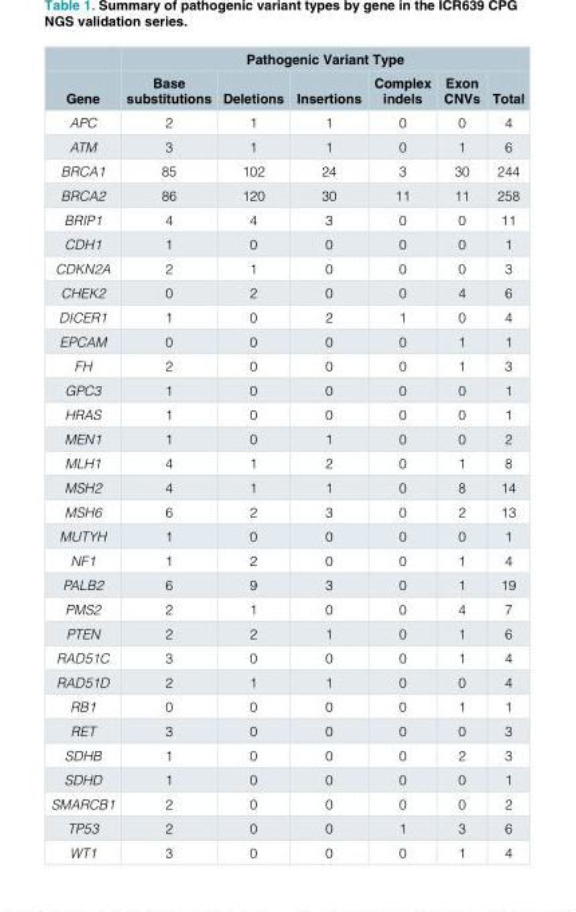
<table><thead><tr><td rowspan="2">Gene</td><td colspan="6">Pathogenic Variant Type</td></tr><tr><td>Base substitutions</td><td>Deletions</td><td>Insertions</td><td>Complex indels</td><td>Exon CNVs</td><td>Total</td></tr></thead><tbody><tr><td>APC</td><td>2</td><td>1</td><td>1</td><td>0</td><td>0</td><td>4</td></tr><tr><td>ATM</td><td>3</td><td>1</td><td>1</td><td>0</td><td>1</td><td>6</td></tr><tr><td>BRCA1</td><td>85</td><td>102</td><td>24</td><td>3</td><td>30</td><td>244</td></tr><tr><td>BRCA2</td><td>86</td><td>120</td><td>30</td><td>11</td><td>11</td><td>258</td></tr><tr><td>BRIP1</td><td>4</td><td>4</td><td>3</td><td>0</td><td>0</td><td>11</td></tr><tr><td>CDH1</td><td>1</td><td>0</td><td>0</td><td>0</td><td>0</td><td>1</td></tr><tr><td>CDKN2A</td><td>2</td><td>1</td><td>0</td><td>0</td><td>0</td><td>3</td></tr><tr><td>CHEK2</td><td>0</td><td>2</td><td>0</td><td>0</td><td>4</td><td>6</td></tr><tr><td>DICER1</td><td>1</td><td>0</td><td>2</td><td>1</td><td>0</td><td>4</td></tr><tr><td>EPCAM</td><td>0</td><td>0</td><td>0</td><td>0</td><td>1</td><td>1</td></tr><tr><td>FH</td><td>2</td><td>0</td><td>0</td><td>0</td><td>1</td><td>3</td></tr><tr><td>GPC3</td><td>1</td><td>0</td><td>0</td><td>0</td><td>0</td><td>1</td></tr><tr><td>HRAS</td><td>1</td><td>0</td><td>0</td><td>0</td><td>0</td><td>1</td></tr><tr><td>MEN1</td><td>1</td><td>0</td><td>1</td><td>0</td><td>0</td><td>2</td></tr><tr><td>MLH1</td><td>4</td><td>1</td><td>2</td><td>0</td><td>1</td><td>8</td></tr><tr><td>MSH2</td><td>4</td><td>1</td><td>1</td><td>0</td><td>8</td><td>14</td></tr><tr><td>MSH6</td><td>6</td><td>2</td><td>3</td><td>0</td><td>2</td><td>13</td></tr><tr><td>MUTYH</td><td>1</td><td>0</td><td>0</td><td>0</td><td>0</td><td>1</td></tr><tr><td>NF1</td><td>1</td><td>2</td><td>0</td><td>0</td><td>1</td><td>4</td></tr><tr><td>PALB2</td><td>6</td><td>9</td><td>3</td><td>0</td><td>1</td><td>19</td></tr><tr><td>PMS2</td><td>2</td><td>1</td><td>0</td><td>0</td><td>4</td><td>7</td></tr><tr><td>PTEN</td><td>2</td><td>2</td><td>1</td><td>0</td><td>1</td><td>6</td></tr><tr><td>RAD51C</td><td>3</td><td>0</td><td>0</td><td>0</td><td>1</td><td>4</td></tr><tr><td>RAD51D</td><td>2</td><td>1</td><td>1</td><td>0</td><td>0</td><td>4</td></tr><tr><td>RB1</td><td>0</td><td>0</td><td>0</td><td>0</td><td>1</td><td>1</td></tr><tr><td>RET</td><td>3</td><td>0</td><td>0</td><td>0</td><td>0</td><td>3</td></tr><tr><td>SDHB</td><td>1</td><td>0</td><td>0</td><td>0</td><td>2</td><td>3</td></tr><tr><td>SDHD</td><td>1</td><td>0</td><td>0</td><td>0</td><td>0</td><td>1</td></tr><tr><td>SMARCB1</td><td>2</td><td>0</td><td>0</td><td>0</td><td>0</td><td>2</td></tr><tr><td>TP53</td><td>2</td><td>0</td><td>0</td><td>1</td><td>3</td><td>6</td></tr><tr><td>WT1</td><td>3</td><td>0</td><td>0</td><td>0</td><td>1</td><td>4</td></tr></tbody></table>